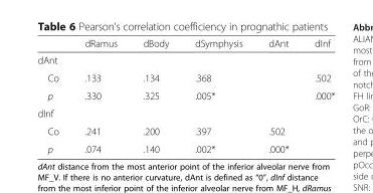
<table><thead><tr><td></td><td>dRamus</td><td>dBody</td><td>dSymphysis</td><td>dAnt</td><td>dInf</td></tr></thead><tbody><tr><td colspan="6">dAnt</td></tr><tr><td>Co</td><td>.133</td><td>.134</td><td>.368</td><td></td><td>.502</td></tr><tr><td>p</td><td>.330</td><td>.325</td><td>.005*</td><td></td><td>.000*</td></tr><tr><td colspan="6">dInf</td></tr><tr><td>Co</td><td>.241</td><td>.200</td><td>.397</td><td>.502</td><td></td></tr><tr><td>p</td><td>.074</td><td>.140</td><td>.002*</td><td>.000*</td><td></td></tr></tbody></table>